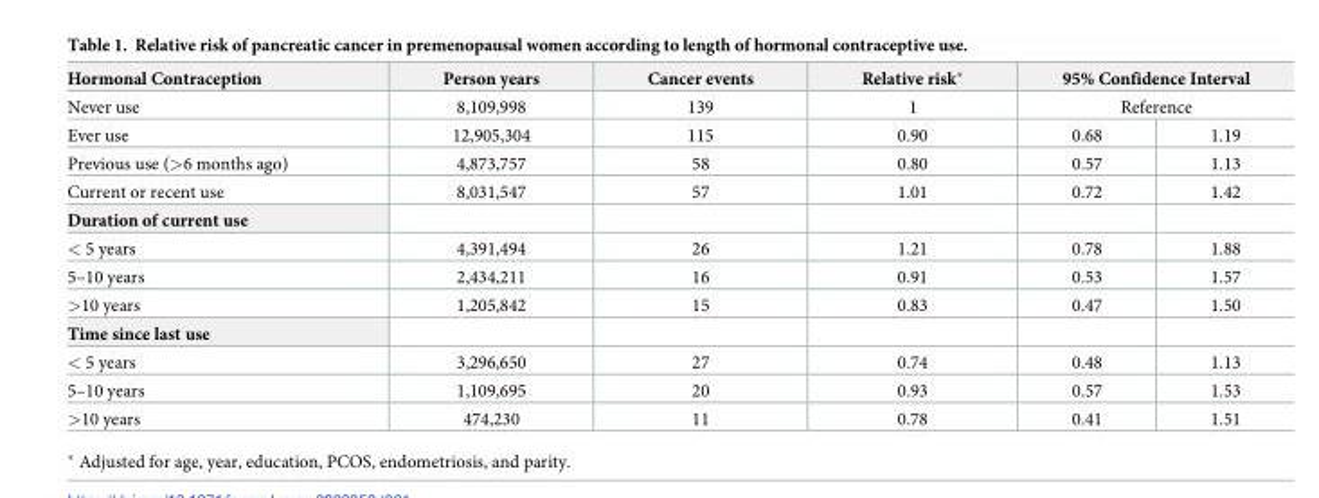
<table><thead><tr><td rowspan="3">Hormonal Contraception Never use Ever use</td><td rowspan="3">Person years 8,109,998 12,905,304</td><td rowspan="3">Cancer events 139 115</td><td rowspan="3">Relative risk* 1 0.90</td><td rowspan="2" colspan="2">95% Confidence Interval Reference</td></tr><tr></tr><tr><td>0.68</td><td>1.19</td></tr></thead><tbody><tr><td>Previous use (&gt;6 months ago)</td><td>4,873,757</td><td>58</td><td>0.80</td><td>0.57</td><td>1.13</td></tr><tr><td>Current or recent use</td><td>8,031,547</td><td>57</td><td>1.01</td><td>0.72</td><td>1.42</td></tr><tr><td colspan="6">Duration of current use</td></tr><tr><td>&lt; 5 years</td><td>4,391,494</td><td>26</td><td>1.21</td><td>0.78</td><td>1.88</td></tr><tr><td>5–10 years</td><td>2,434,211</td><td>16</td><td>0.91</td><td>0.53</td><td>1.57</td></tr><tr><td>&gt;10 years</td><td>1,205,842</td><td>15</td><td>0.83</td><td>0.47</td><td>1.50</td></tr><tr><td colspan="6">Time since last use</td></tr><tr><td>&lt; 5 years</td><td>3,296,650</td><td>27</td><td>0.74</td><td>0.48</td><td>1.13</td></tr><tr><td>5–10 years</td><td>1,109,695</td><td>20</td><td>0.93</td><td>0.57</td><td>1.53</td></tr><tr><td>&gt;10 years</td><td>474,230</td><td>11</td><td>0.78</td><td>0.41</td><td>1.51</td></tr></tbody></table>